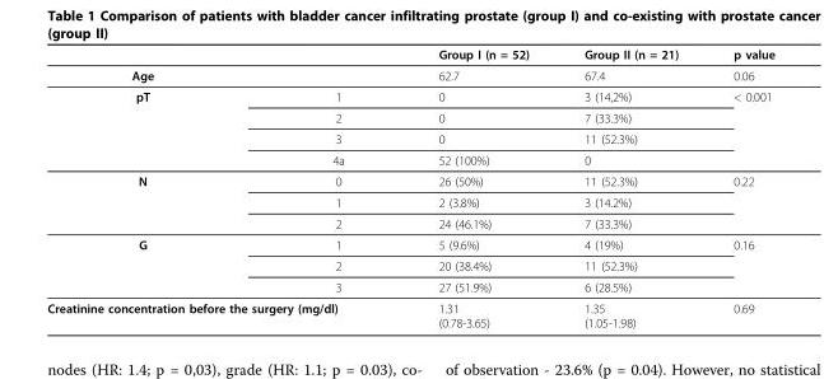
<table><thead><tr><td></td><td></td><td>Group I (n = 52)</td><td>Group II (n = 21)</td><td>p value</td></tr></thead><tbody><tr><td>Age</td><td></td><td>62.7</td><td>67.4</td><td>0.06</td></tr><tr><td rowspan="4">pT</td><td>1</td><td>0</td><td>3 (14,2%)</td><td>&lt; 0.001</td></tr><tr><td>2</td><td>0</td><td>7 (33.3%)</td><td></td></tr><tr><td>3</td><td>0</td><td>11 (52.3%)</td><td></td></tr><tr><td>4a</td><td>52 (100%)</td><td>0</td><td></td></tr><tr><td rowspan="3">N</td><td>0</td><td>26 (50%)</td><td>11 (52.3%)</td><td>0.22</td></tr><tr><td>1</td><td>2 (3.8%)</td><td>3 (14.2%)</td><td></td></tr><tr><td>2</td><td>24 (46.1%)</td><td>7 (33.3%)</td><td></td></tr><tr><td rowspan="3">G</td><td>1</td><td>5 (9.6%)</td><td>4 (19%)</td><td>0.16</td></tr><tr><td>2</td><td>20 (38.4%)</td><td>11 (52.3%)</td><td></td></tr><tr><td>3</td><td>27 (51.9%)</td><td>6 (28.5%)</td><td></td></tr><tr><td colspan="2">Creatinine concentration before the surgery (mg/dl)</td><td>1.31 (0.78-3.65)</td><td>1.35 (1.05-1.98)</td><td>0.69</td></tr></tbody></table>